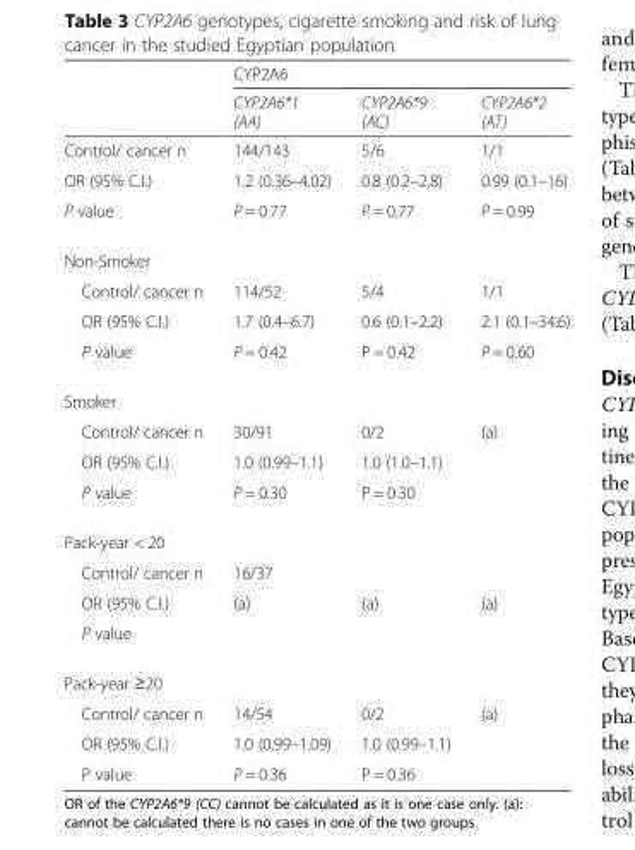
<table><thead><tr><td rowspan="2"></td><td colspan="3">CYP2A6</td></tr><tr><td>CYP2A6*1 (AA)</td><td>CYP2A6*9 (AC)</td><td>CYP2A6*2 (AT)</td></tr></thead><tbody><tr><td>Control/ cancer n</td><td>144/143</td><td>5/6</td><td>1/1</td></tr><tr><td>OR (95% C.I.)</td><td>1.2 (0.36–4.02)</td><td>0.8 (0.2–2.8)</td><td>0.99 (0.1–16)</td></tr><tr><td>P value</td><td>P = 0.77</td><td>P = 0.77</td><td>P = 0.99</td></tr><tr><td colspan="4">Non-Smoker</td></tr><tr><td>Control/ cancer n</td><td>114/52</td><td>5/4</td><td>1/1</td></tr><tr><td>OR (95% C.I.)</td><td>1.7 (0.4–6.7)</td><td>0.6 (0.1–2.2)</td><td>2.1 (0.1–34.6)</td></tr><tr><td>P value</td><td>P = 0.42</td><td>P = 0.42</td><td>P = 0.60</td></tr><tr><td colspan="4">Smoker</td></tr><tr><td>Control/ cancer n</td><td>30/91</td><td>0/2</td><td rowspan="3">(a)</td></tr><tr><td>OR (95% C.I.)</td><td>1.0 (0.99–1.1)</td><td>1.0 (1.0–1.1)</td></tr><tr><td>P value</td><td>P = 0.30</td><td>P = 0.30</td></tr><tr><td colspan="4">Pack-year &lt; 20</td></tr><tr><td>Control/ cancer n</td><td>16/37</td><td></td><td></td></tr><tr><td>OR (95% C.I.)</td><td>(a)</td><td>(a)</td><td>(a)</td></tr><tr><td colspan="4">P value</td></tr><tr><td colspan="4">Pack-year ≥20</td></tr><tr><td>Control/ cancer n</td><td>14/54</td><td>0/2</td><td rowspan="3">(a)</td></tr><tr><td>OR (95% C.I.)</td><td>1.0 (0.99–1.09)</td><td>1.0 (0.99–1.1)</td></tr><tr><td>P value</td><td>P = 0.36</td><td>P = 0.36</td></tr></tbody></table>